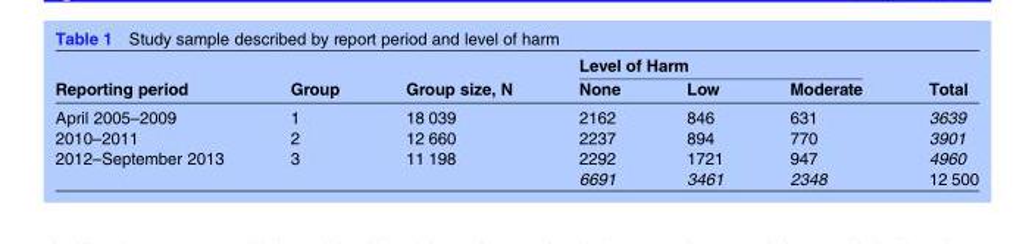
<table><thead><tr><td rowspan="2">Reporting period</td><td rowspan="2">Group</td><td rowspan="2">Group size, N</td><td colspan="3">Level of Harm</td><td rowspan="2">Total</td></tr><tr><td>None</td><td>Low</td><td>Moderate</td></tr></thead><tbody><tr><td>April 2005–2009</td><td>1</td><td>18 039</td><td>2162</td><td>846</td><td>631</td><td>3639</td></tr><tr><td>2010–2011</td><td>2</td><td>12 660</td><td>2237</td><td>894</td><td>770</td><td>3901</td></tr><tr><td rowspan="2">2012–September 2013</td><td>3</td><td>11 198</td><td>2292</td><td>1721</td><td>947</td><td>4960</td></tr><tr><td></td><td></td><td>6691</td><td>3461</td><td>2348</td><td>12 500</td></tr></tbody></table>